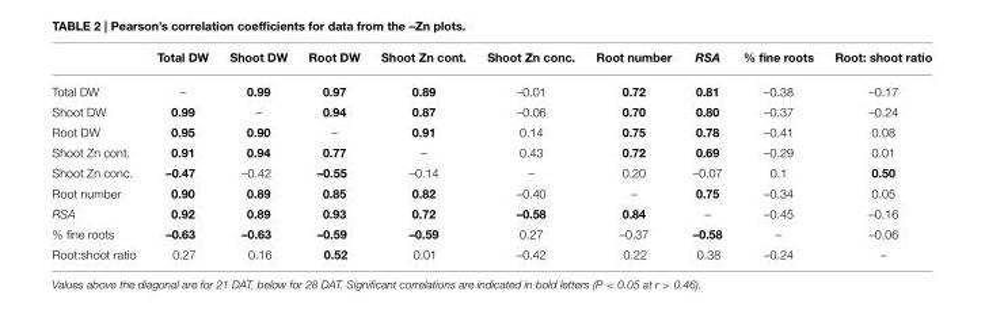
<table><thead><tr><td></td><td>Total DW</td><td>Shoot DW</td><td>Root DW</td><td>Shoot Zn cont.</td><td>Shoot Zn conc.</td><td>Root number</td><td>RSA</td><td>% fine roots</td><td>Root: shoot ratio</td></tr></thead><tbody><tr><td>Total DW</td><td>–</td><td>0.99</td><td>0.97</td><td>0.89</td><td>–0.01</td><td>0.72</td><td>0.81</td><td>–0.38</td><td>–0.17</td></tr><tr><td>Shoot DW</td><td>0.99</td><td>–</td><td>0.94</td><td>0.87</td><td>–0.06</td><td>0.70</td><td>0.80</td><td>–0.37</td><td>–0.24</td></tr><tr><td>Root DW</td><td>0.95</td><td>0.90</td><td>–</td><td>0.91</td><td>0.14</td><td>0.75</td><td>0.78</td><td>–0.41</td><td>0.08</td></tr><tr><td>Shoot Zn cont.</td><td>0.91</td><td>0.94</td><td>0.77</td><td>–</td><td>0.43</td><td>0.72</td><td>0.69</td><td>–0.29</td><td>0.01</td></tr><tr><td>Shoot Zn conc.</td><td>–0.47</td><td>–0.42</td><td>–0.55</td><td>–0.14</td><td>–</td><td>0.20</td><td>–0.07</td><td>0.1</td><td>0.50</td></tr><tr><td>Root number</td><td>0.90</td><td>0.89</td><td>0.85</td><td>0.82</td><td>–0.40</td><td>–</td><td>0.75</td><td>–0.34</td><td>0.05</td></tr><tr><td>RSA</td><td>0.92</td><td>0.89</td><td>0.93</td><td>0.72</td><td>–0.58</td><td>0.84</td><td>–</td><td>–0.45</td><td>–0.16</td></tr><tr><td>% fine roots</td><td>–0.63</td><td>–0.63</td><td>–0.59</td><td>–0.59</td><td>0.27</td><td>–0.37</td><td>–0.58</td><td>–</td><td>–0.06</td></tr><tr><td>Root:shoot ratio</td><td>0.27</td><td>0.16</td><td>0.52</td><td>0.01</td><td>–0.42</td><td>0.22</td><td>0.38</td><td>–0.24</td><td>–</td></tr></tbody></table>